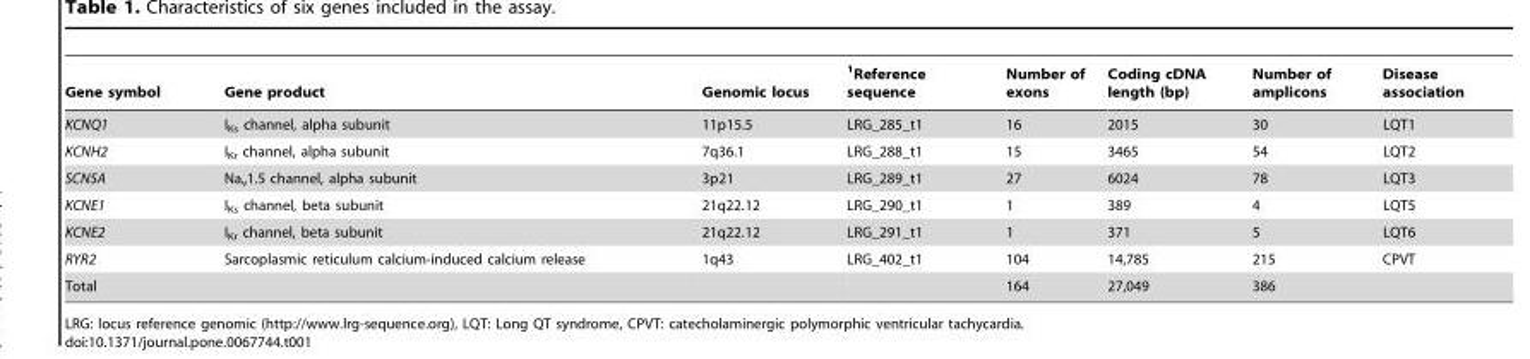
<table><thead><tr><td>Gene symbol</td><td>Gene product</td><td>Genomic locus</td><td><sup>1</sup>Reference sequence</td><td>Number of exons</td><td>Coding cDNA length (bp)</td><td>Number of amplicons</td><td>Disease association</td></tr></thead><tbody><tr><td>KCNQ1</td><td>I<sub>Ks</sub> channel, alpha subunit</td><td>11p15.5</td><td>LRG_285_t1</td><td>16</td><td>2015</td><td>30</td><td>LQT1</td></tr><tr><td>KCNH2</td><td>I<sub>Kr</sub> channel, alpha subunit</td><td>7q36.1</td><td>LRG_288_t1</td><td>15</td><td>3465</td><td>54</td><td>LQT2</td></tr><tr><td>SCN5A</td><td>Na<sub>v</sub>1.5 channel, alpha subunit</td><td>3p21</td><td>LRG_289_t1</td><td>27</td><td>6024</td><td>78</td><td>LQT3</td></tr><tr><td>KCNE1</td><td>I<sub>Ks</sub> channel, beta subunit</td><td>21q22.12</td><td>LRG_290_t1</td><td>1</td><td>389</td><td>4</td><td>LQT5</td></tr><tr><td>KCNE2</td><td>I<sub>Kr</sub> channel, beta subunit</td><td>21q22.12</td><td>LRG_291_t1</td><td>1</td><td>371</td><td>5</td><td>LQT6</td></tr><tr><td>RYR2</td><td>Sarcoplasmic reticulum calcium-induced calcium release</td><td>1q43</td><td>LRG_402_t1</td><td>104</td><td>14,785</td><td>215</td><td>CPVT</td></tr><tr><td>Total</td><td></td><td></td><td></td><td>164</td><td>27,049</td><td>386</td><td></td></tr></tbody></table>